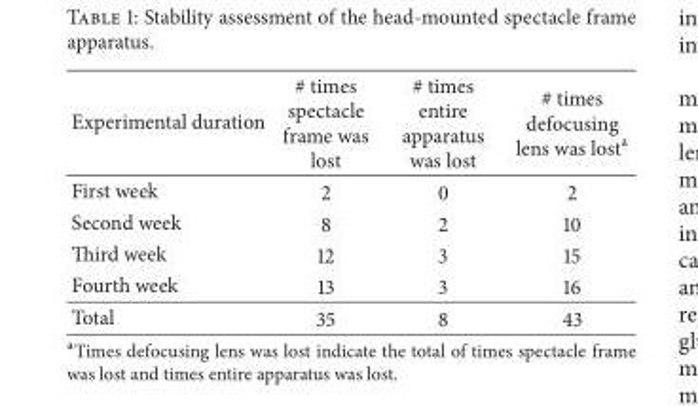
<table><thead><tr><td>Experimental duration</td><td># times spectacle frame was lost</td><td># times entire apparatus was lost</td><td># times defocusing lens was lost<sup>a</sup></td></tr></thead><tbody><tr><td>First week</td><td>2</td><td>0</td><td>2</td></tr><tr><td>Second week</td><td>8</td><td>2</td><td>10</td></tr><tr><td>Third week</td><td>12</td><td>3</td><td>15</td></tr><tr><td>Fourth week</td><td>13</td><td>3</td><td>16</td></tr><tr><td>Total</td><td>35</td><td>8</td><td>43</td></tr></tbody></table>